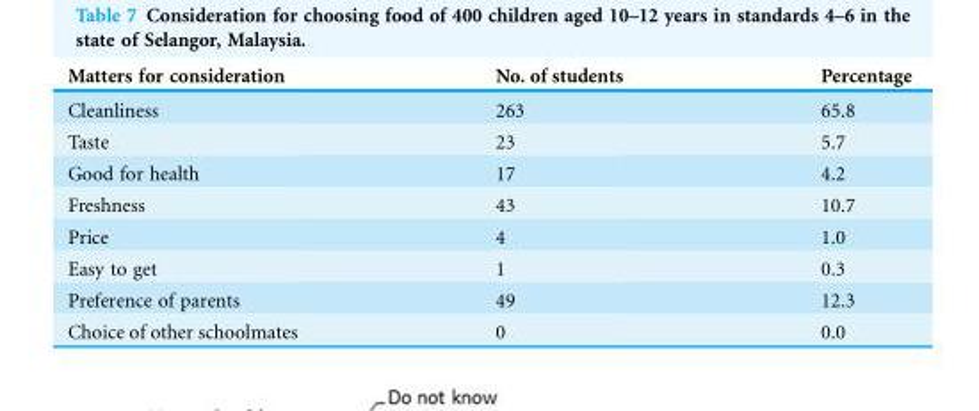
<table><thead><tr><td>Matters for consideration</td><td>No. of students</td><td>Percentage</td></tr></thead><tbody><tr><td>Cleanliness</td><td>263</td><td>65.8</td></tr><tr><td>Taste</td><td>23</td><td>5.7</td></tr><tr><td>Good for health</td><td>17</td><td>4.2</td></tr><tr><td>Freshness</td><td>43</td><td>10.7</td></tr><tr><td>Price</td><td>4</td><td>1.0</td></tr><tr><td>Easy to get</td><td>1</td><td>0.3</td></tr><tr><td>Preference of parents</td><td>49</td><td>12.3</td></tr><tr><td>Choice of other schoolmates</td><td>0</td><td>0.0</td></tr></tbody></table>